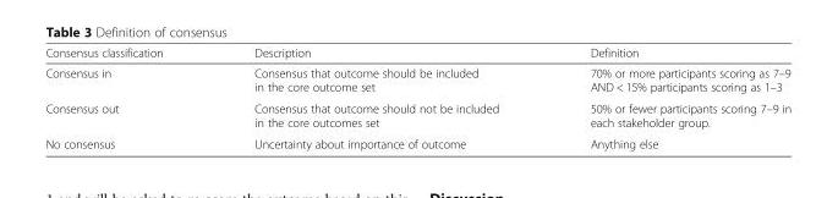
<table><thead><tr><td>Consensus classification</td><td>Description</td><td>Definition</td></tr></thead><tbody><tr><td>Consensus in</td><td>Consensus that outcome should be included in the core outcome set</td><td>70% or more participants scoring as 7–9 AND &lt; 15% participants scoring as 1–3</td></tr><tr><td>Consensus out</td><td>Consensus that outcome should not be included in the core outcomes set</td><td>50% or fewer participants scoring 7–9 in each stakeholder group.</td></tr><tr><td>No consensus</td><td>Uncertainty about importance of outcome</td><td>Anything else</td></tr></tbody></table>